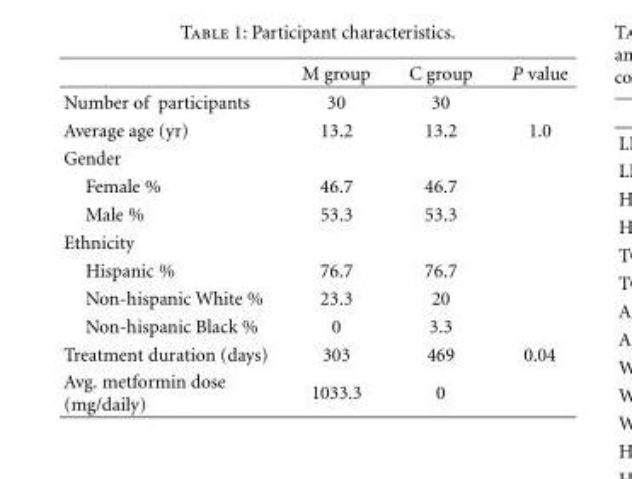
<table><thead><tr><td></td><td>M group</td><td>C group</td><td>P value</td></tr></thead><tbody><tr><td>Number of participants</td><td>30</td><td>30</td><td></td></tr><tr><td>Average age (yr)</td><td>13.2</td><td>13.2</td><td>1.0</td></tr><tr><td colspan="4">Gender</td></tr><tr><td>Female %</td><td>46.7</td><td>46.7</td><td></td></tr><tr><td>Male %</td><td>53.3</td><td>53.3</td><td></td></tr><tr><td colspan="4">Ethnicity</td></tr><tr><td>Hispanic %</td><td>76.7</td><td>76.7</td><td></td></tr><tr><td>Non-hispanic White %</td><td>23.3</td><td>20</td><td></td></tr><tr><td>Non-hispanic Black %</td><td>0</td><td>3.3</td><td></td></tr><tr><td>Treatment duration (days)</td><td>303</td><td>469</td><td>0.04</td></tr><tr><td>Avg. metformin dose (mg/daily)</td><td>1033.3</td><td>0</td><td></td></tr></tbody></table>